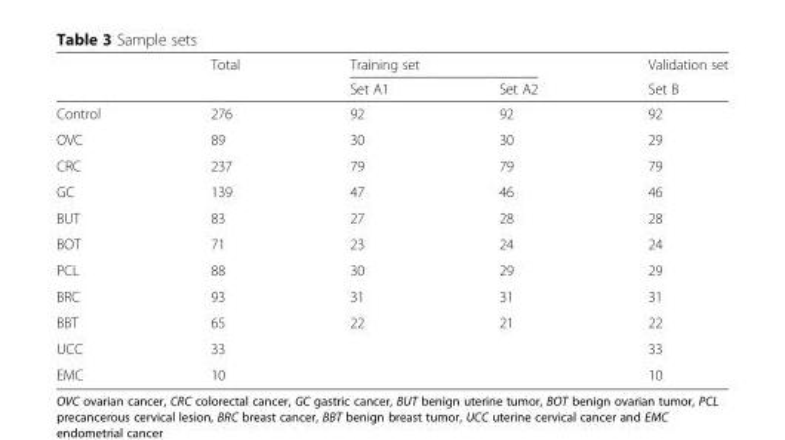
<table><thead><tr><td rowspan="2"></td><td rowspan="2">Total</td><td colspan="2">Training set</td><td rowspan="2">Validation set Set B</td></tr><tr><td>Set A1</td><td>Set A2</td></tr></thead><tbody><tr><td>Control</td><td>276</td><td>92</td><td>92</td><td>92</td></tr><tr><td>OVC</td><td>89</td><td>30</td><td>30</td><td>29</td></tr><tr><td>CRC</td><td>237</td><td>79</td><td>79</td><td>79</td></tr><tr><td>GC</td><td>139</td><td>47</td><td>46</td><td>46</td></tr><tr><td>BUT</td><td>83</td><td>27</td><td>28</td><td>28</td></tr><tr><td>BOT</td><td>71</td><td>23</td><td>24</td><td>24</td></tr><tr><td>PCL</td><td>88</td><td>30</td><td>29</td><td>29</td></tr><tr><td>BRC</td><td>93</td><td>31</td><td>31</td><td>31</td></tr><tr><td>BBT</td><td>65</td><td>22</td><td>21</td><td>22</td></tr><tr><td>UCC</td><td>33</td><td></td><td></td><td>33</td></tr><tr><td>EMC</td><td>10</td><td></td><td></td><td>10</td></tr></tbody></table>